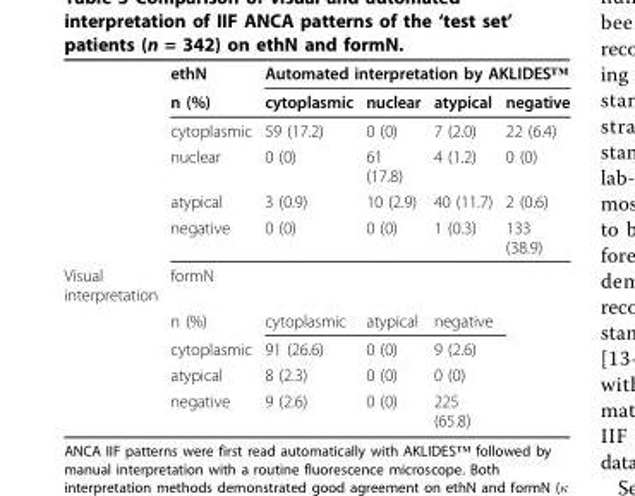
<table><thead><tr><td rowspan="2"></td><td rowspan="2">ethN n (%)</td><td colspan="4">Automated interpretation by AKLIDES™</td></tr><tr><td>cytoplasmic</td><td>nuclear</td><td>atypical</td><td>negative</td></tr></thead><tbody><tr><td></td><td>cytoplasmic</td><td>59 (17.2)</td><td>0 (0)</td><td>7 (2.0)</td><td>22 (6.4)</td></tr><tr><td></td><td>nuclear</td><td>0 (0)</td><td>61 (17.8)</td><td>4 (1.2)</td><td>0 (0)</td></tr><tr><td></td><td>atypical</td><td>3 (0.9)</td><td>10 (2.9)</td><td>40 (11.7)</td><td>2 (0.6)</td></tr><tr><td></td><td>negative</td><td>0 (0)</td><td>0 (0)</td><td>1 (0.3)</td><td>133 (38.9)</td></tr><tr><td rowspan="5">Visual interpretation</td><td>formN</td><td colspan="4"></td></tr><tr><td>n (%)</td><td>cytoplasmic</td><td>atypical</td><td>negative</td><td></td></tr><tr><td>cytoplasmic</td><td>91 (26.6)</td><td>0 (0)</td><td>9 (2.6)</td><td></td></tr><tr><td>atypical</td><td>8 (2.3)</td><td>0 (0)</td><td>0 (0)</td><td></td></tr><tr><td>negative</td><td>9 (2.6)</td><td>0 (0)</td><td>225 (65.8)</td><td></td></tr></tbody></table>